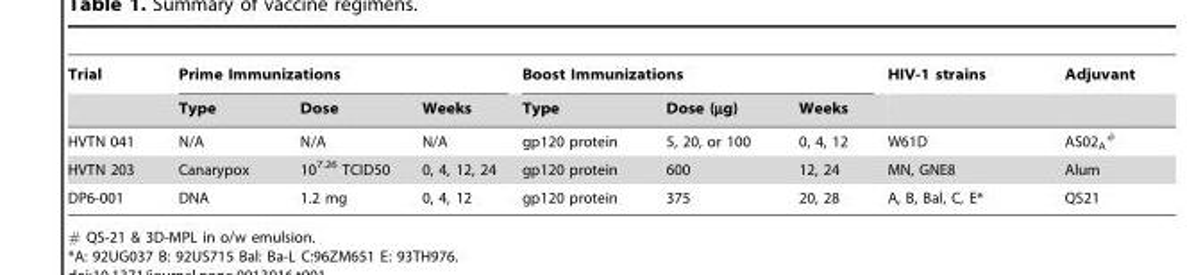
<table><thead><tr><td rowspan="2">Trial</td><td colspan="3">Prime Immunizations</td><td colspan="3">Boost Immunizations</td><td rowspan="2">HIV-1 strains</td><td rowspan="2">Adjuvant</td></tr><tr><td>Type</td><td>Dose</td><td>Weeks</td><td>Type</td><td>Dose (µg)</td><td>Weeks</td></tr></thead><tbody><tr><td>HVTN 041</td><td>N/A</td><td>N/A</td><td>N/A</td><td>gp120 protein</td><td>5, 20, or 100</td><td>0, 4, 12</td><td>W61D</td><td>AS02<sub>A</sub> #</td></tr><tr><td>HVTN 203</td><td>Canarypox</td><td>10<sup>7.26</sup> TCID50</td><td>0, 4, 12, 24</td><td>gp120 protein</td><td>600</td><td>12, 24</td><td>MN, GNE8</td><td>Alum</td></tr><tr><td>DP6-001</td><td>DNA</td><td>1.2 mg</td><td>0, 4, 12</td><td>gp120 protein</td><td>375</td><td>20, 28</td><td>A, B, Bal, C, E*</td><td>QS21</td></tr></tbody></table>